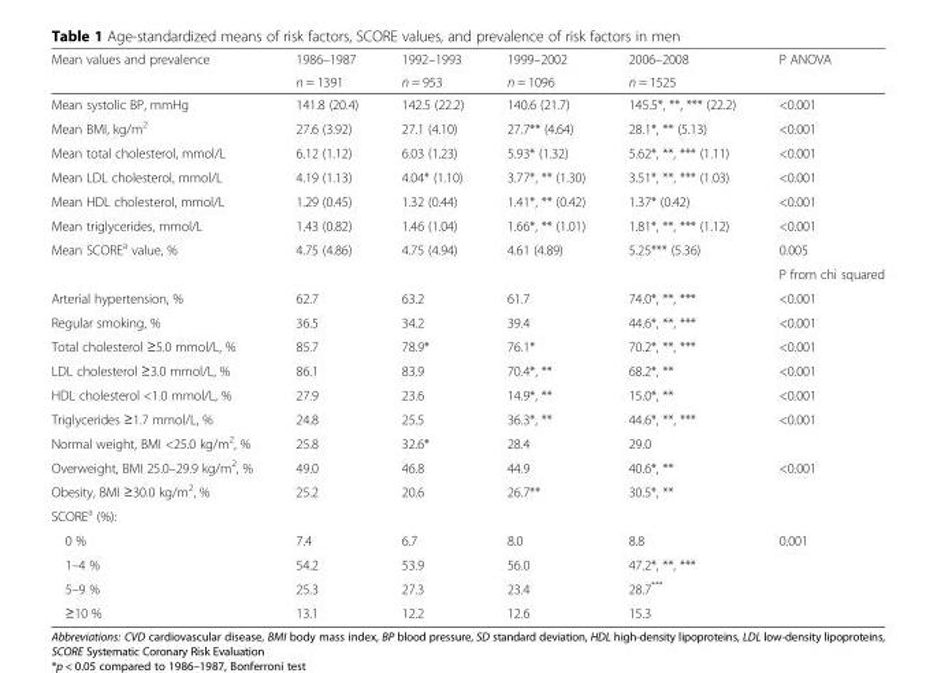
<table><thead><tr><td rowspan="2">Mean values and prevalence</td><td rowspan="2">1986–1987 n = 1391</td><td rowspan="2">1992–1993 n = 953</td><td rowspan="2">1999–2002 n = 1096</td><td rowspan="2">2006–2008 n = 1525</td><td rowspan="2">P ANOVA</td></tr><tr></tr></thead><tbody><tr><td>Mean systolic BP, mmHg</td><td>141.8 (20.4)</td><td>142.5 (22.2)</td><td>140.6 (21.7)</td><td>145.5*, **, *** (22.2)</td><td>&lt;0.001</td></tr><tr><td>Mean BMI, kg/m<sup>2</sup></td><td>27.6 (3.92)</td><td>27.1 (4.10)</td><td>27.7** (4.64)</td><td>28.1*, ** (5.13)</td><td>&lt;0.001</td></tr><tr><td>Mean total cholesterol, mmol/L</td><td>6.12 (1.12)</td><td>6.03 (1.23)</td><td>5.93* (1.32)</td><td>5.62*, **, *** (1.11)</td><td>&lt;0.001</td></tr><tr><td>Mean LDL cholesterol, mmol/L</td><td>4.19 (1.13)</td><td>4.04* (1.10)</td><td>3.77*, ** (1.30)</td><td>3.51*, **, *** (1.03)</td><td>&lt;0.001</td></tr><tr><td>Mean HDL cholesterol, mmol/L</td><td>1.29 (0.45)</td><td>1.32 (0.44)</td><td>1.41*, ** (0.42)</td><td>1.37* (0.42)</td><td>&lt;0.001</td></tr><tr><td>Mean triglycerides, mmol/L</td><td>1.43 (0.82)</td><td>1.46 (1.04)</td><td>1.66*, ** (1.01)</td><td>1.81*, **, *** (1.12)</td><td>&lt;0.001</td></tr><tr><td rowspan="2">Mean SCORE<sup>a</sup> value, %</td><td>4.75 (4.86)</td><td>4.75 (4.94)</td><td>4.61 (4.89)</td><td>5.25*** (5.36)</td><td>0.005</td></tr><tr><td></td><td></td><td></td><td></td><td>P from chi squared</td></tr><tr><td>Arterial hypertension, %</td><td>62.7</td><td>63.2</td><td>61.7</td><td>74.0*, **, ***</td><td>&lt;0.001</td></tr><tr><td>Regular smoking, %</td><td>36.5</td><td>34.2</td><td>39.4</td><td>44.6*, **, ***</td><td>&lt;0.001</td></tr><tr><td>Total cholesterol ≥5.0 mmol/L, %</td><td>85.7</td><td>78.9*</td><td>76.1*</td><td>70.2*, **, ***</td><td>&lt;0.001</td></tr><tr><td>LDL cholesterol ≥3.0 mmol/L, %</td><td>86.1</td><td>83.9</td><td>70.4*, **</td><td>68.2*, **</td><td>&lt;0.001</td></tr><tr><td>HDL cholesterol &lt;1.0 mmol/L, %</td><td>27.9</td><td>23.6</td><td>14.9*, **</td><td>15.0*, **</td><td>&lt;0.001</td></tr><tr><td>Triglycerides ≥1.7 mmol/L, %</td><td>24.8</td><td>25.5</td><td>36.3*, **</td><td>44.6*, **, ***</td><td>&lt;0.001</td></tr><tr><td>Normal weight, BMI &lt;25.0 kg/m<sup>2</sup>, %</td><td>25.8</td><td>32.6*</td><td>28.4</td><td>29.0</td><td></td></tr><tr><td>Overweight, BMI 25.0–29.9 kg/m<sup>2</sup>, %</td><td>49.0</td><td>46.8</td><td>44.9</td><td>40.6*, **</td><td rowspan="2">&lt;0.001</td></tr><tr><td>Obesity, BMI ≥30.0 kg/m<sup>2</sup>, %</td><td>25.2</td><td>20.6</td><td>26.7**</td><td>30.5*, **</td></tr><tr><td colspan="6">SCORE<sup>a</sup> (%):</td></tr><tr><td>0 %</td><td>7.4</td><td>6.7</td><td>8.0</td><td>8.8</td><td rowspan="4">0.001</td></tr><tr><td>1–4 %</td><td>54.2</td><td>53.9</td><td>56.0</td><td>47.2*, **, ***</td></tr><tr><td>5–9 %</td><td>25.3</td><td>27.3</td><td>23.4</td><td>28.7***</td></tr><tr><td>≥10 %</td><td>13.1</td><td>12.2</td><td>12.6</td><td>15.3</td></tr></tbody></table>